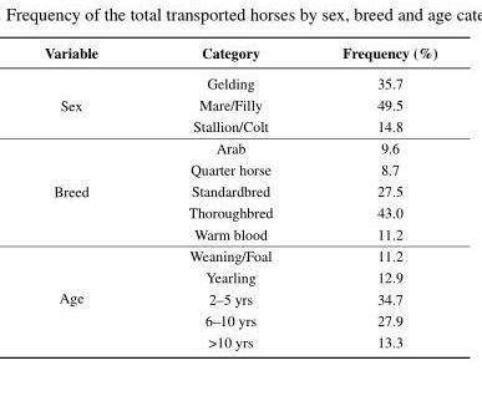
<table><thead><tr><td>Variable</td><td>Category</td><td>Frequency (%)</td></tr></thead><tbody><tr><td rowspan="3">Sex</td><td>Gelding</td><td>35.7</td></tr><tr><td>Mare/Filly</td><td>49.5</td></tr><tr><td>Stallion/Colt</td><td>14.8</td></tr><tr><td rowspan="5">Breed</td><td>Arab</td><td>9.6</td></tr><tr><td>Quarter horse</td><td>8.7</td></tr><tr><td>Standardbred</td><td>27.5</td></tr><tr><td>Thoroughbred</td><td>43.0</td></tr><tr><td>Warm blood</td><td>11.2</td></tr><tr><td rowspan="5">Age</td><td>Weaning/Foal</td><td>11.2</td></tr><tr><td>Yearling</td><td>12.9</td></tr><tr><td>2–5 yrs</td><td>34.7</td></tr><tr><td>6–10 yrs</td><td>27.9</td></tr><tr><td>&gt;10 yrs</td><td>13.3</td></tr></tbody></table>